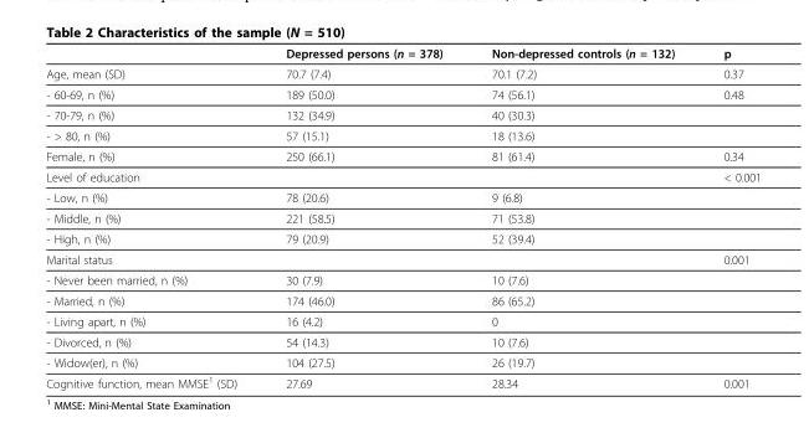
<table><thead><tr><td></td><td>Depressed persons (n = 378)</td><td>Non-depressed controls (n = 132)</td><td>p</td></tr></thead><tbody><tr><td>Age, mean (SD)</td><td>70.7 (7.4)</td><td>70.1 (7.2)</td><td>0.37</td></tr><tr><td>- 60-69, n (%)</td><td>189 (50.0)</td><td>74 (56.1)</td><td>0.48</td></tr><tr><td>- 70-79, n (%)</td><td>132 (34.9)</td><td>40 (30.3)</td><td></td></tr><tr><td>- &gt; 80, n (%)</td><td>57 (15.1)</td><td>18 (13.6)</td><td></td></tr><tr><td>Female, n (%)</td><td>250 (66.1)</td><td>81 (61.4)</td><td>0.34</td></tr><tr><td>Level of education</td><td></td><td></td><td>&lt; 0.001</td></tr><tr><td>- Low, n (%)</td><td>78 (20.6)</td><td>9 (6.8)</td><td></td></tr><tr><td>- Middle, n (%)</td><td>221 (58.5)</td><td>71 (53.8)</td><td></td></tr><tr><td>- High, n (%)</td><td>79 (20.9)</td><td>52 (39.4)</td><td></td></tr><tr><td>Marital status</td><td></td><td></td><td>0.001</td></tr><tr><td>- Never been married, n (%)</td><td>30 (7.9)</td><td>10 (7.6)</td><td></td></tr><tr><td>- Married, n (%)</td><td>174 (46.0)</td><td>86 (65.2)</td><td></td></tr><tr><td>- Living apart, n (%)</td><td>16 (4.2)</td><td>0</td><td></td></tr><tr><td>- Divorced, n (%)</td><td>54 (14.3)</td><td>10 (7.6)</td><td></td></tr><tr><td>- Widow(er), n (%)</td><td>104 (27.5)</td><td>26 (19.7)</td><td></td></tr><tr><td>Cognitive function, mean MMSE<sup>1</sup> (SD)</td><td>27.69</td><td>28.34</td><td>0.001</td></tr></tbody></table>